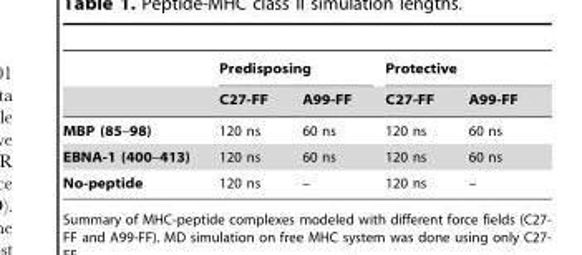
<table><thead><tr><td rowspan="2"></td><td colspan="2">Predisposing</td><td colspan="2">Protective</td></tr><tr><td>C27-FF</td><td>A99-FF</td><td>C27-FF</td><td>A99-FF</td></tr></thead><tbody><tr><td>MBP (85–98)</td><td>120 ns</td><td>60 ns</td><td>120 ns</td><td>60 ns</td></tr><tr><td>EBNA-1 (400–413)</td><td>120 ns</td><td>60 ns</td><td>120 ns</td><td>60 ns</td></tr><tr><td>No-peptide</td><td>120 ns</td><td>–</td><td>120 ns</td><td>–</td></tr></tbody></table>